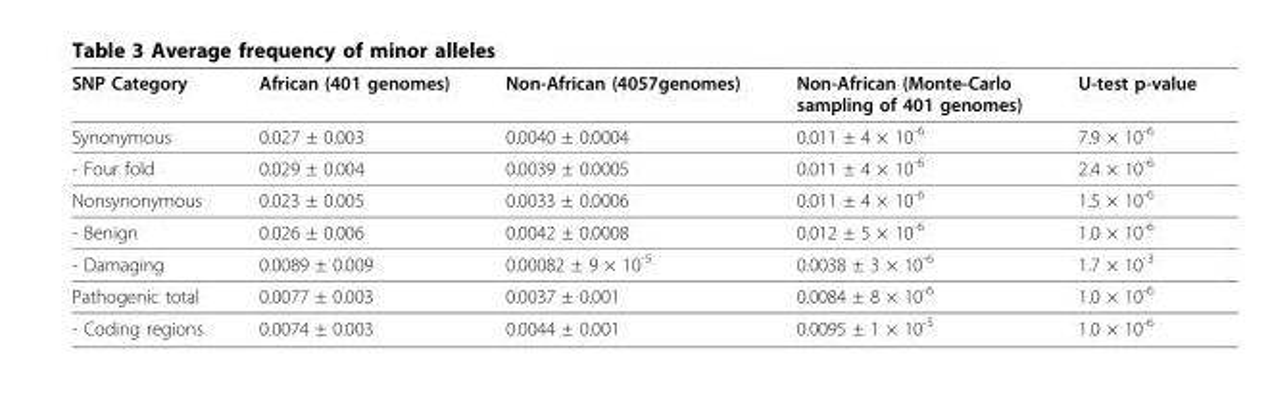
<table><thead><tr><td>SNP Category</td><td>African (401 genomes)</td><td>Non-African (4057genomes)</td><td>Non-African (Monte-Carlo sampling of 401 genomes)</td><td>U-test p-value</td></tr></thead><tbody><tr><td>Synonymous</td><td>0.027 ± 0.003</td><td>0.0040 ± 0.0004</td><td>0.011 ± 4 × 10<sup>-6</sup></td><td>7.9 × 10<sup>-6</sup></td></tr><tr><td>- Four fold</td><td>0.029 ± 0.004</td><td>0.0039 ± 0.0005</td><td>0.011 ± 4 × 10<sup>-6</sup></td><td>2.4 × 10<sup>-6</sup></td></tr><tr><td>Nonsynonymous</td><td>0.023 ± 0.005</td><td>0.0033 ± 0.0006</td><td>0.011 ± 4 × 10<sup>-6</sup></td><td>1.5 × 10<sup>-6</sup></td></tr><tr><td>- Benign</td><td>0.026 ± 0.006</td><td>0.0042 ± 0.0008</td><td>0.012 ± 5 × 10<sup>-6</sup></td><td>1.0 × 10<sup>-6</sup></td></tr><tr><td>- Damaging</td><td>0.0089 ± 0.009</td><td>0.00082 ± 9 × 10<sup>-5</sup></td><td>0.0038 ± 3 × 10<sup>-6</sup></td><td>1.7 × 10<sup>-3</sup></td></tr><tr><td>Pathogenic total</td><td>0.0077 ± 0.003</td><td>0.0037 ± 0.001</td><td>0.0084 ± 8 × 10<sup>-6</sup></td><td>1.0 × 10<sup>-6</sup></td></tr><tr><td>- Coding regions</td><td>0.0074 ± 0.003</td><td>0.0044 ± 0.001</td><td>0.0095 ± 1 × 10<sup>-5</sup></td><td>1.0 × 10<sup>-6</sup></td></tr></tbody></table>